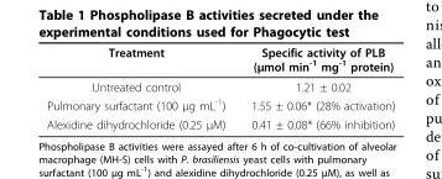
<table><thead><tr><td>Treatment</td><td>Specific activity of PLB (μmol min<sup>-1</sup> mg<sup>-1</sup> protein)</td></tr></thead><tbody><tr><td>Untreated control</td><td>1.21 ± 0.02</td></tr><tr><td>Pulmonary surfactant (100 μg mL<sup>-1</sup>)</td><td>1.55 ± 0.06* (28% activation)</td></tr><tr><td>Alexidine dihydrochloride (0.25 μM)</td><td>0.41 ± 0.08* (66% inhibition)</td></tr></tbody></table>